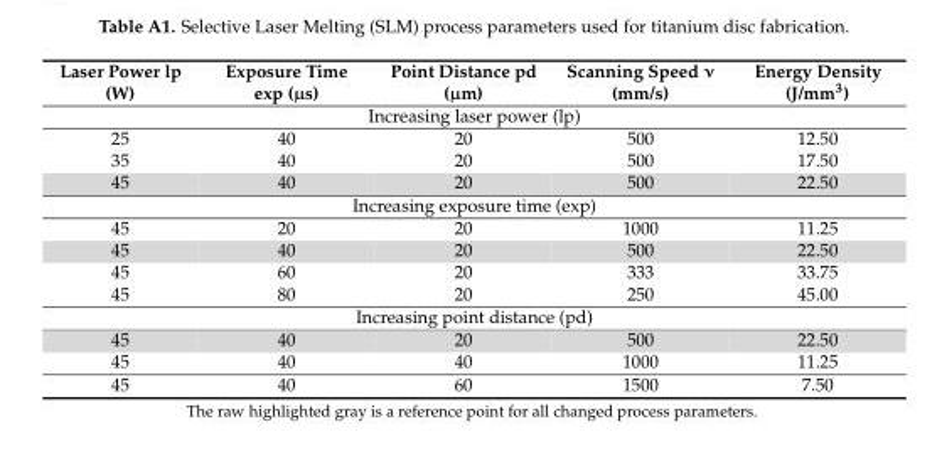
<table><thead><tr><td>Laser Power lp (W)</td><td>Exposure Time exp (µs)</td><td>Point Distance pd (µm)</td><td>Scanning Speed ν (mm/s)</td><td>Energy Density (J/mm<sup>3</sup>)</td></tr></thead><tbody><tr><td colspan="5">Increasing laser power (lp)</td></tr><tr><td>25</td><td>40</td><td>20</td><td>500</td><td>12.50</td></tr><tr><td>35</td><td>40</td><td>20</td><td>500</td><td>17.50</td></tr><tr><td>45</td><td>40</td><td>20</td><td>500</td><td>22.50</td></tr><tr><td colspan="5">Increasing exposure time (exp)</td></tr><tr><td>45</td><td>20</td><td>20</td><td>1000</td><td>11.25</td></tr><tr><td>45</td><td>40</td><td>20</td><td>500</td><td>22.50</td></tr><tr><td>45</td><td>60</td><td>20</td><td>333</td><td>33.75</td></tr><tr><td>45</td><td>80</td><td>20</td><td>250</td><td>45.00</td></tr><tr><td colspan="5">Increasing point distance (pd)</td></tr><tr><td>45</td><td>40</td><td>20</td><td>500</td><td>22.50</td></tr><tr><td>45</td><td>40</td><td>40</td><td>1000</td><td>11.25</td></tr><tr><td>45</td><td>40</td><td>60</td><td>1500</td><td>7.50</td></tr></tbody></table>